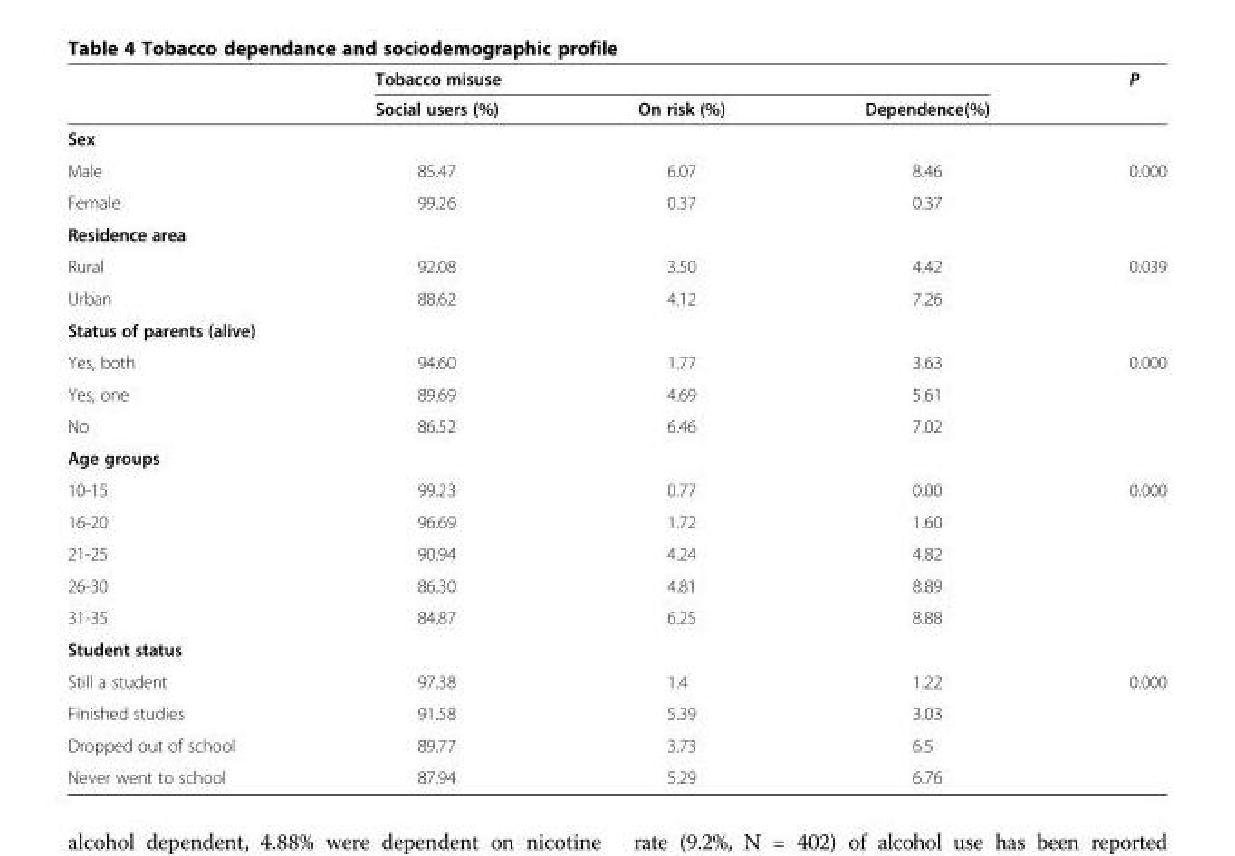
<table><thead><tr><td rowspan="2"></td><td colspan="3">Tobacco misuse</td><td rowspan="2">P</td></tr><tr><td>Social users (%)</td><td>On risk (%)</td><td>Dependence(%)</td></tr></thead><tbody><tr><td colspan="5">Sex</td></tr><tr><td>Male</td><td>85.47</td><td>6.07</td><td>8.46</td><td rowspan="2">0.000</td></tr><tr><td>Female</td><td>99.26</td><td>0.37</td><td>0.37</td></tr><tr><td colspan="5">Residence area</td></tr><tr><td>Rural</td><td>92.08</td><td>3.50</td><td>4.42</td><td rowspan="2">0.039</td></tr><tr><td>Urban</td><td>88.62</td><td>4.12</td><td>7.26</td></tr><tr><td colspan="5">Status of parents (alive)</td></tr><tr><td>Yes, both</td><td>94.60</td><td>1.77</td><td>3.63</td><td rowspan="3">0.000</td></tr><tr><td>Yes, one</td><td>89.69</td><td>4.69</td><td>5.61</td></tr><tr><td>No</td><td>86.52</td><td>6.46</td><td>7.02</td></tr><tr><td colspan="5">Age groups</td></tr><tr><td>10-15</td><td>99.23</td><td>0.77</td><td>0.00</td><td rowspan="5">0.000</td></tr><tr><td>16-20</td><td>96.69</td><td>1.72</td><td>1.60</td></tr><tr><td>21-25</td><td>90.94</td><td>4.24</td><td>4.82</td></tr><tr><td>26-30</td><td>86.30</td><td>4.81</td><td>8.89</td></tr><tr><td>31-35</td><td>84.87</td><td>6.25</td><td>8.88</td></tr><tr><td colspan="5">Student status</td></tr><tr><td>Still a student</td><td>97.38</td><td>1.4</td><td>1.22</td><td rowspan="4">0.000</td></tr><tr><td>Finished studies</td><td>91.58</td><td>5.39</td><td>3.03</td></tr><tr><td>Dropped out of school</td><td>89.77</td><td>3.73</td><td>6.5</td></tr><tr><td>Never went to school</td><td>87.94</td><td>5.29</td><td>6.76</td></tr></tbody></table>